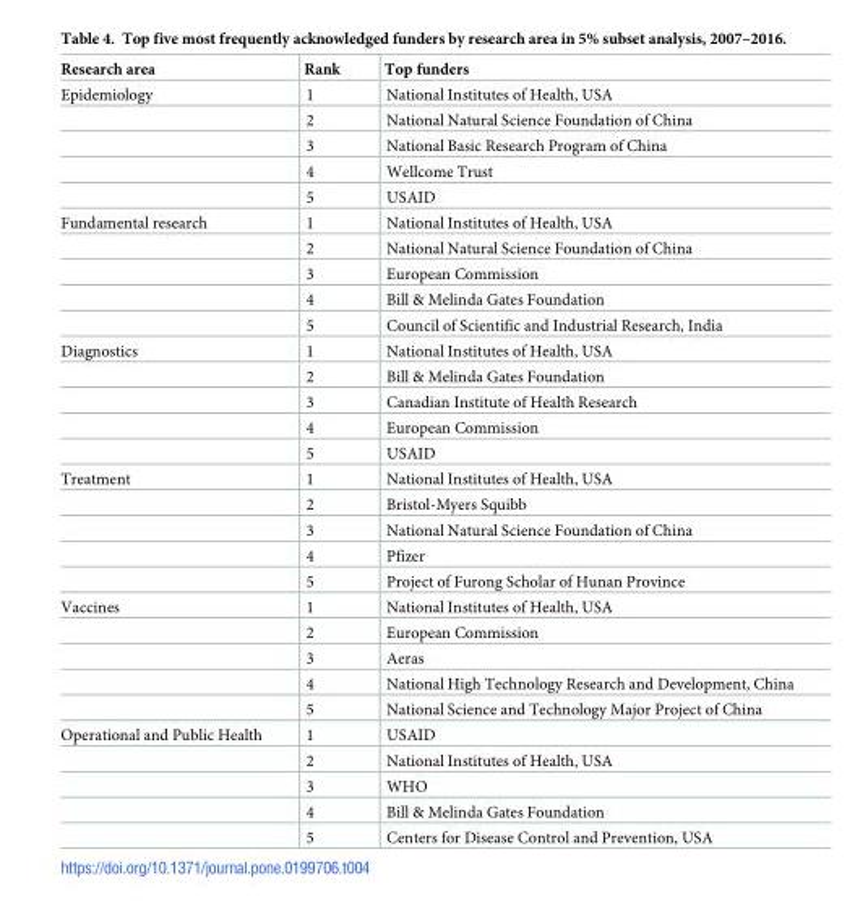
<table><thead><tr><td>Research area</td><td>Rank</td><td>Top funders</td></tr></thead><tbody><tr><td rowspan="5">Epidemiology</td><td>1</td><td>National Institutes of Health, USA</td></tr><tr><td>2</td><td>National Natural Science Foundation of China</td></tr><tr><td>3</td><td>National Basic Research Program of China</td></tr><tr><td>4</td><td>Wellcome Trust</td></tr><tr><td>5</td><td>USAID</td></tr><tr><td rowspan="5">Fundamental research</td><td>1</td><td>National Institutes of Health, USA</td></tr><tr><td>2</td><td>National Natural Science Foundation of China</td></tr><tr><td>3</td><td>European Commission</td></tr><tr><td>4</td><td>Bill &amp; Melinda Gates Foundation</td></tr><tr><td>5</td><td>Council of Scientific and Industrial Research, India</td></tr><tr><td rowspan="5">Diagnostics</td><td>1</td><td>National Institutes of Health, USA</td></tr><tr><td>2</td><td>Bill &amp; Melinda Gates Foundation</td></tr><tr><td>3</td><td>Canadian Institute of Health Research</td></tr><tr><td>4</td><td>European Commission</td></tr><tr><td>5</td><td>USAID</td></tr><tr><td rowspan="5">Treatment</td><td>1</td><td>National Institutes of Health, USA</td></tr><tr><td>2</td><td>Bristol-Myers Squibb</td></tr><tr><td>3</td><td>National Natural Science Foundation of China</td></tr><tr><td>4</td><td>Pfizer</td></tr><tr><td>5</td><td>Project of Furong Scholar of Hunan Province</td></tr><tr><td rowspan="5">Vaccines</td><td>1</td><td>National Institutes of Health, USA</td></tr><tr><td>2</td><td>European Commission</td></tr><tr><td>3</td><td>Aeras</td></tr><tr><td>4</td><td>National High Technology Research and Development, China</td></tr><tr><td>5</td><td>National Science and Technology Major Project of China</td></tr><tr><td rowspan="5">Operational and Public Health</td><td>1</td><td>USAID</td></tr><tr><td>2</td><td>National Institutes of Health, USA</td></tr><tr><td>3</td><td>WHO</td></tr><tr><td>4</td><td>Bill &amp; Melinda Gates Foundation</td></tr><tr><td>5</td><td>Centers for Disease Control and Prevention, USA</td></tr></tbody></table>